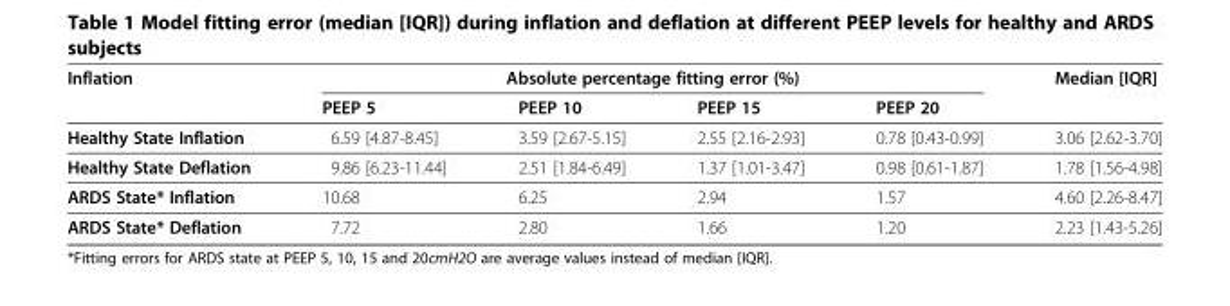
<table><thead><tr><td rowspan="2">Inflation</td><td colspan="4">Absolute percentage fitting error (%)</td><td rowspan="2">Median [IQR]</td></tr><tr><td>PEEP 5</td><td>PEEP 10</td><td>PEEP 15</td><td>PEEP 20</td></tr></thead><tbody><tr><td>Healthy State Inflation</td><td>6.59 [4.87-8.45]</td><td>3.59 [2.67-5.15]</td><td>2.55 [2.16-2.93]</td><td>0.78 [0.43-0.99]</td><td>3.06 [2.62-3.70]</td></tr><tr><td>Healthy State Deflation</td><td>9.86 [6.23-11.44]</td><td>2.51 [1.84-6.49]</td><td>1.37 [1.01-3.47]</td><td>0.98 [0.61-1.87]</td><td>1.78 [1.56-4.98]</td></tr><tr><td>ARDS State* Inflation</td><td>10.68</td><td>6.25</td><td>2.94</td><td>1.57</td><td>4.60 [2.26-8.47]</td></tr><tr><td>ARDS State* Deflation</td><td>7.72</td><td>2.80</td><td>1.66</td><td>1.20</td><td>2.23 [1.43-5.26]</td></tr></tbody></table>